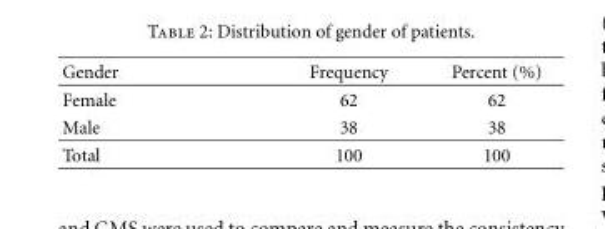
<table><thead><tr><td>Gender</td><td>Frequency</td><td>Percent (%)</td></tr></thead><tbody><tr><td>Female</td><td>62</td><td>62</td></tr><tr><td>Male</td><td>38</td><td>38</td></tr><tr><td>Total</td><td>100</td><td>100</td></tr></tbody></table>